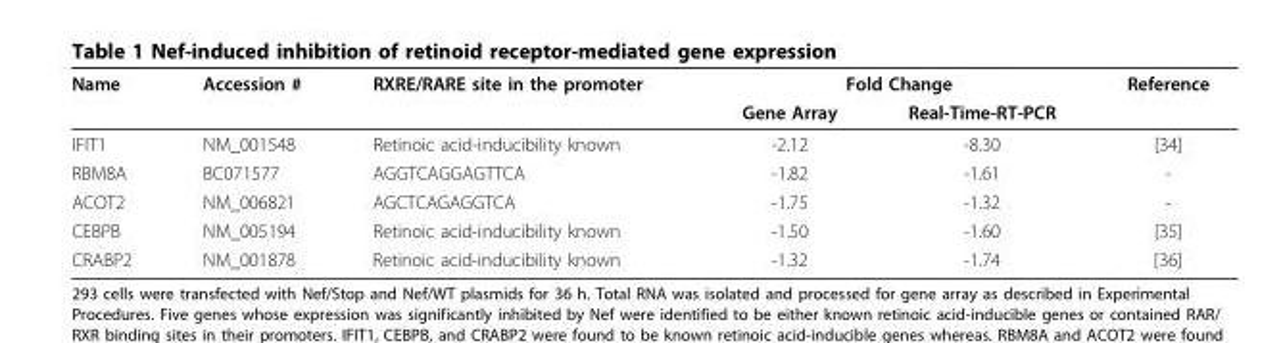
<table><thead><tr><td rowspan="2">Name</td><td rowspan="2">Accession #</td><td rowspan="2">RXRE/RARE site in the promoter</td><td colspan="2">Fold Change</td><td rowspan="2">Reference</td></tr><tr><td>Gene Array</td><td>Real-Time-RT-PCR</td></tr></thead><tbody><tr><td>IFIT1</td><td>NM_001548</td><td>Retinoic acid-inducibility known</td><td>-2.12</td><td>-8.30</td><td>[34]</td></tr><tr><td>RBM8A</td><td>BC071577</td><td>AGGTCAGGAGTTCA</td><td>-1.82</td><td>-1.61</td><td>-</td></tr><tr><td>ACOT2</td><td>NM_006821</td><td>AGCTCAGAGGTCA</td><td>-1.75</td><td>-1.32</td><td>-</td></tr><tr><td>CEBPB</td><td>NM_005194</td><td>Retinoic acid-inducibility known</td><td>-1.50</td><td>-1.60</td><td>[35]</td></tr><tr><td>CRABP2</td><td>NM_001878</td><td>Retinoic acid-inducibility known</td><td>-1.32</td><td>-1.74</td><td>[36]</td></tr></tbody></table>